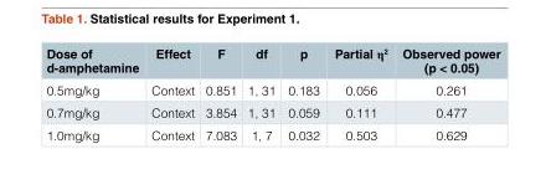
<table><thead><tr><td>Dose of d-amphetamine</td><td>Effect</td><td>F</td><td>df</td><td>p</td><td>Partial η<sup>2</sup></td><td>Observed power (p &lt; 0.05)</td></tr></thead><tbody><tr><td>0.5mg/kg</td><td>Context</td><td>0.851</td><td>1, 31</td><td>0.183</td><td>0.056</td><td>0.261</td></tr><tr><td>0.7mg/kg</td><td>Context</td><td>3.854</td><td>1, 31</td><td>0.059</td><td>0.111</td><td>0.477</td></tr><tr><td>1.0mg/kg</td><td>Context</td><td>7.083</td><td>1, 7</td><td>0.032</td><td>0.503</td><td>0.629</td></tr></tbody></table>